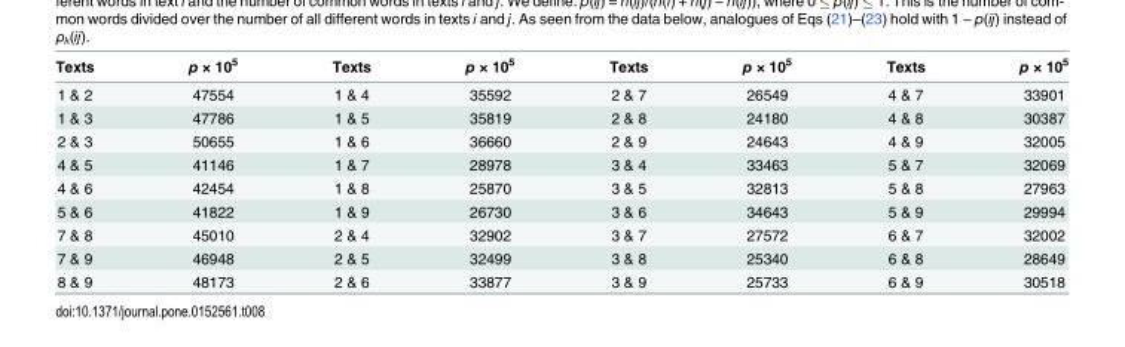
<table><thead><tr><td>Texts</td><td>p × 10<sup>5</sup></td><td>Texts</td><td>p × 10<sup>5</sup></td><td>Texts</td><td>p × 10<sup>5</sup></td><td>Texts</td><td>p × 10<sup>5</sup></td></tr></thead><tbody><tr><td>1 &amp; 2</td><td>47554</td><td>1 &amp; 4</td><td>35592</td><td>2 &amp; 7</td><td>26549</td><td>4 &amp; 7</td><td>33901</td></tr><tr><td>1 &amp; 3</td><td>47786</td><td>1 &amp; 5</td><td>35819</td><td>2 &amp; 8</td><td>24180</td><td>4 &amp; 8</td><td>30387</td></tr><tr><td>2 &amp; 3</td><td>50655</td><td>1 &amp; 6</td><td>36660</td><td>2 &amp; 9</td><td>24643</td><td>4 &amp; 9</td><td>32005</td></tr><tr><td>4 &amp; 5</td><td>41146</td><td>1 &amp; 7</td><td>28978</td><td>3 &amp; 4</td><td>33463</td><td>5 &amp; 7</td><td>32069</td></tr><tr><td>4 &amp; 6</td><td>42454</td><td>1 &amp; 8</td><td>25870</td><td>3 &amp; 5</td><td>32813</td><td>5 &amp; 8</td><td>27963</td></tr><tr><td>5 &amp; 6</td><td>41822</td><td>1 &amp; 9</td><td>26730</td><td>3 &amp; 6</td><td>34643</td><td>5 &amp; 9</td><td>29994</td></tr><tr><td>7 &amp; 8</td><td>45010</td><td>2 &amp; 4</td><td>32902</td><td>3 &amp; 7</td><td>27572</td><td>6 &amp; 7</td><td>32002</td></tr><tr><td>7 &amp; 9</td><td>46948</td><td>2 &amp; 5</td><td>32499</td><td>3 &amp; 8</td><td>25340</td><td>6 &amp; 8</td><td>28649</td></tr><tr><td>8 &amp; 9</td><td>48173</td><td>2 &amp; 6</td><td>33877</td><td>3 &amp; 9</td><td>25733</td><td>6 &amp; 9</td><td>30518</td></tr></tbody></table>